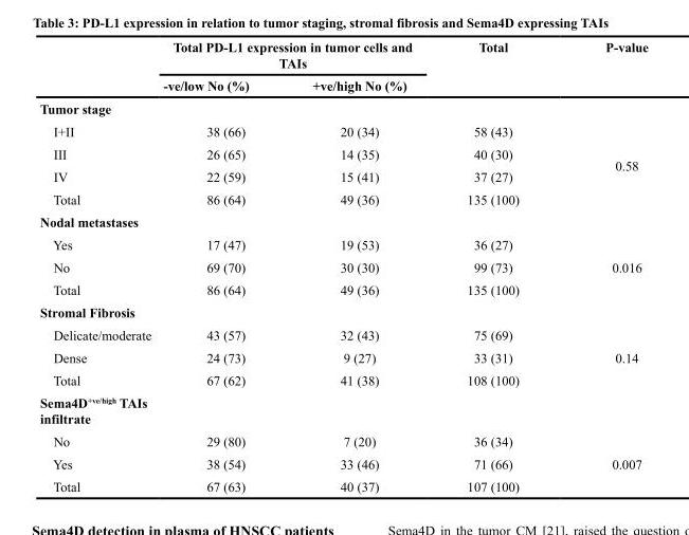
<table><thead><tr><td rowspan="2"></td><td colspan="2">Total PD-L1 expression in tumor cells and TAIs</td><td rowspan="2">Total</td><td rowspan="2">P-value</td></tr><tr><td>-ve/low No (%)</td><td>+ve/high No (%)</td></tr></thead><tbody><tr><td colspan="5">Tumor stage</td></tr><tr><td>I+II</td><td>38 (66)</td><td>20 (34)</td><td>58 (43)</td><td rowspan="4">0.58</td></tr><tr><td>III</td><td>26 (65)</td><td>14 (35)</td><td>40 (30)</td></tr><tr><td>IV</td><td>22 (59)</td><td>15 (41)</td><td>37 (27)</td></tr><tr><td>Total</td><td>86 (64)</td><td>49 (36)</td><td>135 (100)</td></tr><tr><td colspan="5">Nodal metastases</td></tr><tr><td>Yes</td><td>17 (47)</td><td>19 (53)</td><td>36 (27)</td><td rowspan="3">0.016</td></tr><tr><td>No</td><td>69 (70)</td><td>30 (30)</td><td>99 (73)</td></tr><tr><td>Total</td><td>86 (64)</td><td>49 (36)</td><td>135 (100)</td></tr><tr><td colspan="5">Stromal Fibrosis</td></tr><tr><td>Delicate/moderate</td><td>43 (57)</td><td>32 (43)</td><td>75 (69)</td><td rowspan="3">0.14</td></tr><tr><td>Dense</td><td>24 (73)</td><td>9 (27)</td><td>33 (31)</td></tr><tr><td>Total</td><td>67 (62)</td><td>41 (38)</td><td>108 (100)</td></tr><tr><td colspan="5">Sema4D<sup>+ve/high</sup> TAIs infiltrate</td></tr><tr><td>No</td><td>29 (80)</td><td>7 (20)</td><td>36 (34)</td><td rowspan="3">0.007</td></tr><tr><td>Yes</td><td>38 (54)</td><td>33 (46)</td><td>71 (66)</td></tr><tr><td>Total</td><td>67 (63)</td><td>40 (37)</td><td>107 (100)</td></tr></tbody></table>